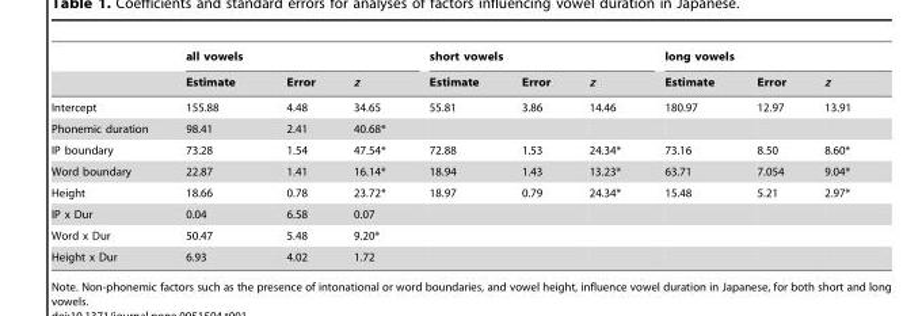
<table><thead><tr><td rowspan="2"></td><td colspan="3">all vowels</td><td colspan="3">short vowels</td><td colspan="3">long vowels</td></tr><tr><td>Estimate</td><td>Error</td><td>z</td><td>Estimate</td><td>Error</td><td>z</td><td>Estimate</td><td>Error</td><td>z</td></tr></thead><tbody><tr><td>Intercept</td><td>155.88</td><td>4.48</td><td>34.65</td><td>55.81</td><td>3.86</td><td>14.46</td><td>180.97</td><td>12.97</td><td>13.91</td></tr><tr><td>Phonemic duration</td><td>98.41</td><td>2.41</td><td>40.68*</td><td></td><td></td><td></td><td></td><td></td><td></td></tr><tr><td>IP boundary</td><td>73.28</td><td>1.54</td><td>47.54*</td><td>72.88</td><td>1.53</td><td>24.34*</td><td>73.16</td><td>8.50</td><td>8.60*</td></tr><tr><td>Word boundary</td><td>22.87</td><td>1.41</td><td>16.14*</td><td>18.94</td><td>1.43</td><td>13.23*</td><td>63.71</td><td>7.054</td><td>9.04*</td></tr><tr><td>Height</td><td>18.66</td><td>0.78</td><td>23.72*</td><td>18.97</td><td>0.79</td><td>24.34*</td><td>15.48</td><td>5.21</td><td>2.97*</td></tr><tr><td>IP x Dur</td><td>0.04</td><td>6.58</td><td>0.07</td><td></td><td></td><td></td><td></td><td></td><td></td></tr><tr><td>Word x Dur</td><td>50.47</td><td>5.48</td><td>9.20*</td><td></td><td></td><td></td><td></td><td></td><td></td></tr><tr><td>Height x Dur</td><td>6.93</td><td>4.02</td><td>1.72</td><td></td><td></td><td></td><td></td><td></td><td></td></tr></tbody></table>